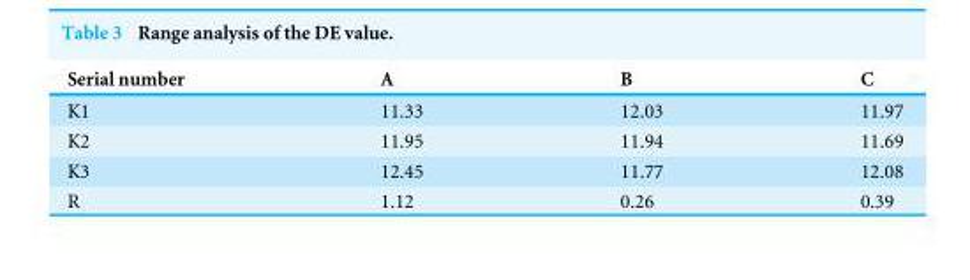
<table><thead><tr><td>Serial number</td><td>A</td><td>B</td><td>C</td></tr></thead><tbody><tr><td>K1</td><td>11.33</td><td>12.03</td><td>11.97</td></tr><tr><td>K2</td><td>11.95</td><td>11.94</td><td>11.69</td></tr><tr><td>K3</td><td>12.45</td><td>11.77</td><td>12.08</td></tr><tr><td>R</td><td>1.12</td><td>0.26</td><td>0.39</td></tr></tbody></table>